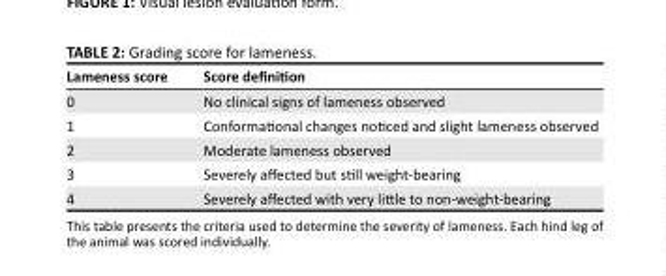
<table><thead><tr><td>Lameness score</td><td>Score definition</td></tr></thead><tbody><tr><td>0</td><td>No clinical signs of lameness observed</td></tr><tr><td>1</td><td>Conformational changes noticed and slight lameness observed</td></tr><tr><td>2</td><td>Moderate lameness observed</td></tr><tr><td>3</td><td>Severely affected but still weight-bearing</td></tr><tr><td>4</td><td>Severely affected with very little to non-weight-bearing</td></tr></tbody></table>